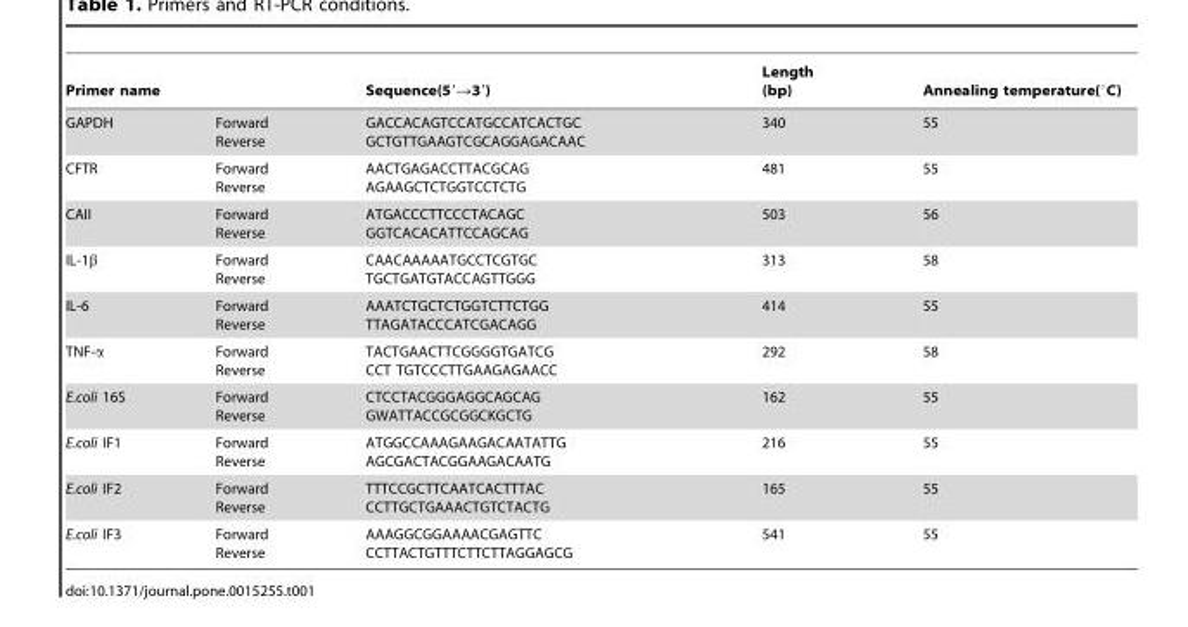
<table><thead><tr><td>Primer name</td><td></td><td>Sequence(5′→3′)</td><td>Length (bp)</td><td>Annealing temperature(°C)</td></tr></thead><tbody><tr><td>GAPDH</td><td>Forward Reverse</td><td>GACCACAGTCCATGCCATCACTGC GCTGTTGAAGTCGCAGGAGACAAC</td><td>340</td><td>55</td></tr><tr><td>CFTR</td><td>Forward Reverse</td><td>AACTGAGACCTTACGCAG AGAAGCTCTGGTCCTCTG</td><td>481</td><td>55</td></tr><tr><td>CAII</td><td>Forward Reverse</td><td>ATGACCCTTCCCTACAGC GGTCACACATTCCAGCAG</td><td>503</td><td>56</td></tr><tr><td>IL-1β</td><td>Forward Reverse</td><td>CAACAAAAATGCCTCGTGC TGCTGATGTACCAGTTGGG</td><td>313</td><td>58</td></tr><tr><td>IL-6</td><td>Forward Reverse</td><td>AAATCTGCTCTGGTCTTCTGG TTAGATACCCATCGACAGG</td><td>414</td><td>55</td></tr><tr><td>TNF-α</td><td>Forward Reverse</td><td>TACTGAACTTCGGGGTGATCG CCT TGTCCCTTGAAGAGAACC</td><td>292</td><td>58</td></tr><tr><td>E.coli 16S</td><td>Forward Reverse</td><td>CTCCTACGGGAGGCAGCAG GWATTACCGCGGCKGCTG</td><td>162</td><td>55</td></tr><tr><td>E.coli IF1</td><td>Forward Reverse</td><td>ATGGCCAAAGAAGACAATATTG AGCGACTACGGAAGACAATG</td><td>216</td><td>55</td></tr><tr><td>E.coli IF2</td><td>Forward Reverse</td><td>TTTCCGCTTCAATCACTTTAC CCTTGCTGAAACTGTCTACTG</td><td>165</td><td>55</td></tr><tr><td>E.coli IF3</td><td>Forward Reverse</td><td>AAAGGCGGAAAACGAGTTC CCTTACTGTTTCTTCTTAGGAGCG</td><td>541</td><td>55</td></tr></tbody></table>